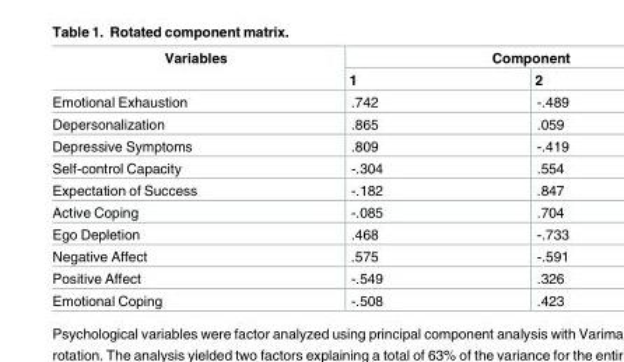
<table><thead><tr><td rowspan="2">Variables</td><td colspan="2">Component</td></tr><tr><td>1</td><td>2</td></tr></thead><tbody><tr><td>Emotional Exhaustion</td><td>.742</td><td>-.489</td></tr><tr><td>Depersonalization</td><td>.865</td><td>.059</td></tr><tr><td>Depressive Symptoms</td><td>.809</td><td>-.419</td></tr><tr><td>Self-control Capacity</td><td>-.304</td><td>.554</td></tr><tr><td>Expectation of Success</td><td>-.182</td><td>.847</td></tr><tr><td>Active Coping</td><td>-.085</td><td>.704</td></tr><tr><td>Ego Depletion</td><td>.468</td><td>-.733</td></tr><tr><td>Negative Affect</td><td>.575</td><td>-.591</td></tr><tr><td>Positive Affect</td><td>-.549</td><td>.326</td></tr><tr><td>Emotional Coping</td><td>-.508</td><td>.423</td></tr></tbody></table>